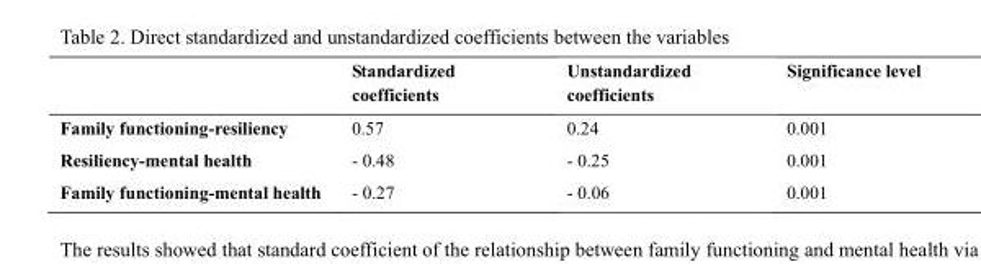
<table><thead><tr><td></td><td>Standardized coefficients</td><td>Unstandardized coefficients</td><td>Significance level</td></tr></thead><tbody><tr><td>Family functioning-resiliency</td><td>0.57</td><td>0.24</td><td>0.001</td></tr><tr><td>Resiliency-mental health</td><td>- 0.48</td><td>- 0.25</td><td>0.001</td></tr><tr><td>Family functioning-mental health</td><td>- 0.27</td><td>- 0.06</td><td>0.001</td></tr></tbody></table>